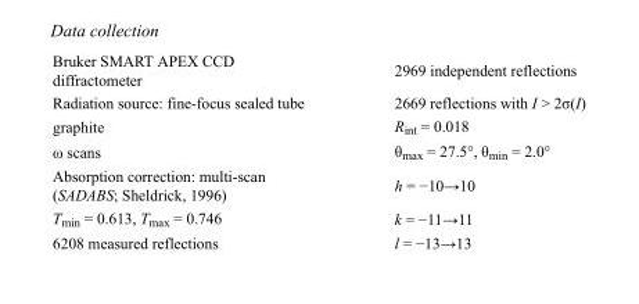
<table><tbody><tr><td>Bruker SMART APEX CCD diffractometer</td><td>2969 independent reflections</td></tr><tr><td>Radiation source: fine-focus sealed tube</td><td>2669 reflections with I &gt; 2σ(I)</td></tr><tr><td>graphite</td><td>R<sub>int</sub> = 0.018</td></tr><tr><td>ω scans</td><td>θ<sub>max</sub> = 27.5°, θ<sub>min</sub> = 2.0°</td></tr><tr><td>Absorption correction: multi-scan (SADABS; Sheldrick, 1996)</td><td>h = −10→10</td></tr><tr><td>T<sub>min</sub> = 0.613, T<sub>max</sub> = 0.746</td><td>k = −11→11</td></tr><tr><td>6208 measured reflections</td><td>l = −13→13</td></tr></tbody></table>